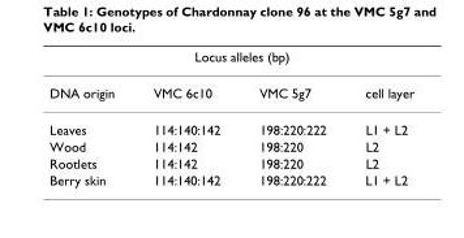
<table><thead><tr><td colspan="4">Locus alleles (bp)</td></tr><tr><td>DNA origin</td><td>VMC 6c10</td><td>VMC 5g7</td><td>cell layer</td></tr></thead><tbody><tr><td>Leaves</td><td>114:140:142</td><td>198:220:222</td><td>L1 + L2</td></tr><tr><td>Wood</td><td>114:142</td><td>198:220</td><td>L2</td></tr><tr><td>Rootlets</td><td>114:142</td><td>198:220</td><td>L2</td></tr><tr><td>Berry skin</td><td>114:140:142</td><td>198:220:222</td><td>L1 + L2</td></tr></tbody></table>